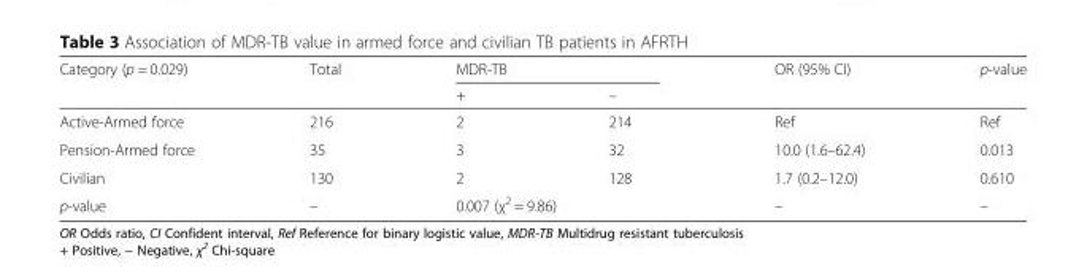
<table><thead><tr><td rowspan="2">Category (p = 0.029)</td><td rowspan="2">Total</td><td colspan="2">MDR-TB</td><td rowspan="2">OR (95% CI)</td><td rowspan="2">p-value</td></tr><tr><td>+</td><td>–</td></tr></thead><tbody><tr><td>Active-Armed force</td><td>216</td><td>2</td><td>214</td><td>Ref</td><td>Ref</td></tr><tr><td>Pension-Armed force</td><td>35</td><td>3</td><td>32</td><td>10.0 (1.6–62.4)</td><td>0.013</td></tr><tr><td>Civilian</td><td>130</td><td>2</td><td>128</td><td>1.7 (0.2–12.0)</td><td>0.610</td></tr><tr><td>p-value</td><td>–</td><td colspan="2">0.007 (χ<sup>2</sup> = 9.86)</td><td>–</td><td>–</td></tr></tbody></table>